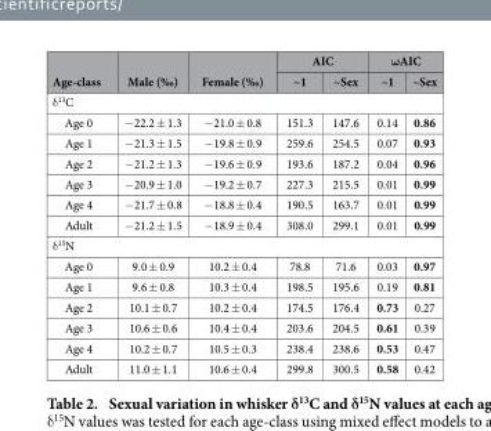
<table><thead><tr><td rowspan="2">Age-class</td><td rowspan="2">Male (‰)</td><td rowspan="2">Female (‰)</td><td colspan="2">AIC</td><td colspan="2">ωAIC</td></tr><tr><td>~1</td><td>~Sex</td><td>~1</td><td>~Sex</td></tr></thead><tbody><tr><td colspan="7">δ <sup>13</sup>C</td></tr><tr><td>Age 0</td><td>− 22.2 ± 1.3</td><td>− 21.0 ± 0.8</td><td>151.3</td><td>147.6</td><td>0.14</td><td>0.86</td></tr><tr><td>Age 1</td><td>− 21.3 ± 1.5</td><td>− 19.8 ± 0.9</td><td>259.6</td><td>254.5</td><td>0.07</td><td>0.93</td></tr><tr><td>Age 2</td><td>− 21.2 ± 1.3</td><td>− 19.6 ± 0.9</td><td>193.6</td><td>187.2</td><td>0.04</td><td>0.96</td></tr><tr><td>Age 3</td><td>− 20.9 ± 1.0</td><td>− 19.2 ± 0.7</td><td>227.3</td><td>215.5</td><td>0.01</td><td>0.99</td></tr><tr><td>Age 4</td><td>− 21.7 ± 0.8</td><td>− 18.8 ± 0.4</td><td>190.5</td><td>163.7</td><td>0.01</td><td>0.99</td></tr><tr><td>Adult</td><td>− 21.2 ± 1.5</td><td>− 18.9 ± 0.4</td><td>308.0</td><td>299.1</td><td>0.01</td><td>0.99</td></tr><tr><td colspan="7">δ <sup>15</sup>N</td></tr><tr><td>Age 0</td><td>9.0 ± 0.9</td><td>10.2 ± 0.4</td><td>78.8</td><td>71.6</td><td>0.03</td><td>0.97</td></tr><tr><td>Age 1</td><td>9.6 ± 0.8</td><td>10.3 ± 0.4</td><td>198.5</td><td>195.6</td><td>0.19</td><td>0.81</td></tr><tr><td>Age 2</td><td>10.1 ± 0.7</td><td>10.2 ± 0.4</td><td>174.5</td><td>176.4</td><td>0.73</td><td>0.27</td></tr><tr><td>Age 3</td><td>10.6 ± 0.6</td><td>10.4 ± 0.4</td><td>203.6</td><td>204.5</td><td>0.61</td><td>0.39</td></tr><tr><td>Age 4</td><td>10.2 ± 0.7</td><td>10.5 ± 0.3</td><td>238.4</td><td>238.6</td><td>0.53</td><td>0.47</td></tr><tr><td>Adult</td><td>11.0 ± 1.1</td><td>10.6 ± 0.4</td><td>299.8</td><td>300.5</td><td>0.58</td><td>0.42</td></tr></tbody></table>